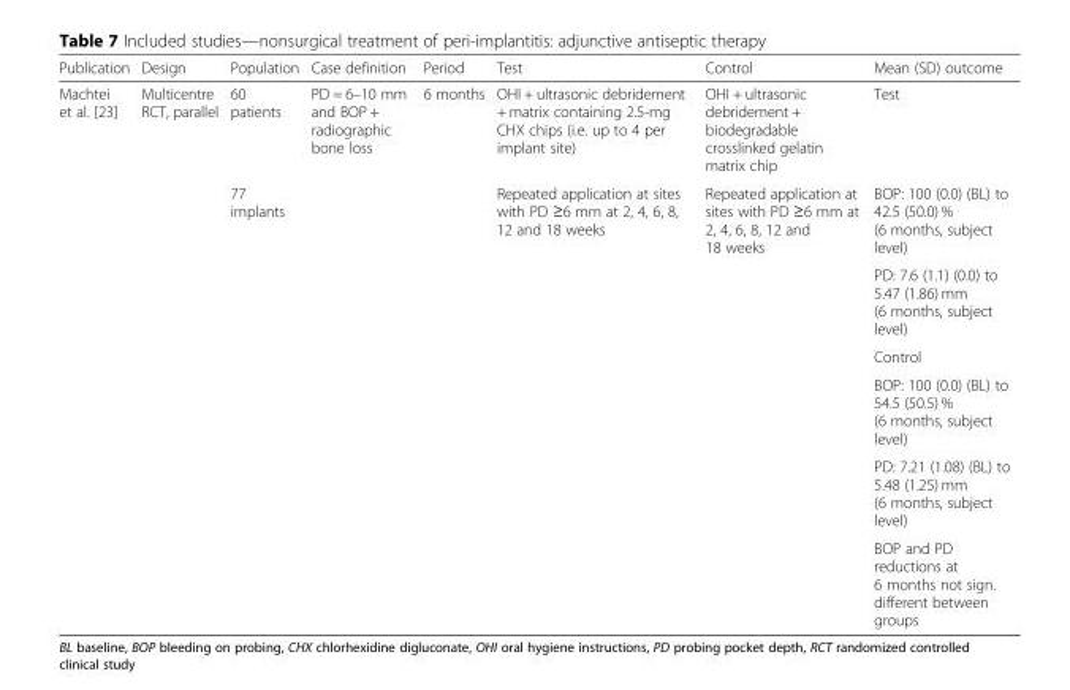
<table><thead><tr><td>Publication</td><td>Design</td><td>Population</td><td>Case definition</td><td>Period</td><td>Test</td><td>Control</td><td>Mean (SD) outcome</td></tr></thead><tbody><tr><td rowspan="7">Machtei et al. [23]</td><td>Multicentre RCT, parallel</td><td>60 patients</td><td>PD = 6–10 mm and BOP + radiographic bone loss</td><td>6 months</td><td>OHI + ultrasonic debridement + matrix containing 2.5-mg CHX chips (i.e. up to 4 per implant site)</td><td>OHI + ultrasonic debridement + biodegradable crosslinked gelatin matrix chip</td><td>Test</td></tr><tr><td></td><td>77 implants</td><td></td><td></td><td>Repeated application at sites with PD ≥6 mm at 2, 4, 6, 8, 12 and 18 weeks</td><td>Repeated application at sites with PD ≥6 mm at 2, 4, 6, 8, 12 and 18 weeks</td><td>BOP: 100 (0.0) (BL) to 42.5 (50.0) % (6 months, subject level)</td></tr><tr><td></td><td></td><td></td><td></td><td></td><td></td><td>PD: 7.6 (1.1) (0.0) to 5.47 (1.86) mm (6 months, subject level)</td></tr><tr><td></td><td></td><td></td><td></td><td></td><td></td><td>Control</td></tr><tr><td></td><td></td><td></td><td></td><td></td><td></td><td>BOP: 100 (0.0) (BL) to 54.5 (50.5) % (6 months, subject level)</td></tr><tr><td></td><td></td><td></td><td></td><td></td><td></td><td>PD: 7.21 (1.08) (BL) to 5.48 (1.25) mm (6 months, subject level)</td></tr><tr><td></td><td></td><td></td><td></td><td></td><td></td><td>BOP and PD reductions at 6 months not sign. different between groups</td></tr></tbody></table>